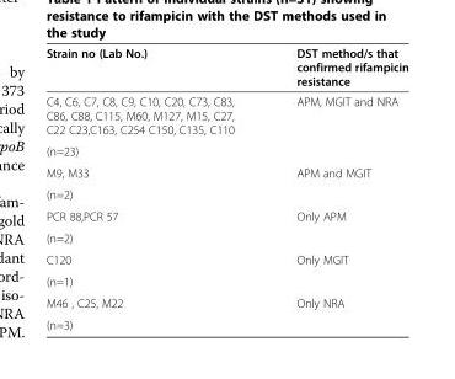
<table><thead><tr><td>Strain no (Lab No.)</td><td>DST method/s that confirmed rifampicin resistance</td></tr></thead><tbody><tr><td>C4, C6, C7, C8, C9, C10, C20, C73, C83, C86, C88, C115, M60, M127, M15, C27, C22 C23,C163, C254 C150, C135, C110</td><td>APM, MGIT and NRA</td></tr><tr><td colspan="2">(n=23)</td></tr><tr><td>M9, M33</td><td>APM and MGIT</td></tr><tr><td colspan="2">(n=2)</td></tr><tr><td>PCR 88,PCR 57</td><td>Only APM</td></tr><tr><td colspan="2">(n=2)</td></tr><tr><td>C120</td><td>Only MGIT</td></tr><tr><td colspan="2">(n=1)</td></tr><tr><td>M46 , C25, M22</td><td>Only NRA</td></tr><tr><td>(n=3)</td><td></td></tr></tbody></table>